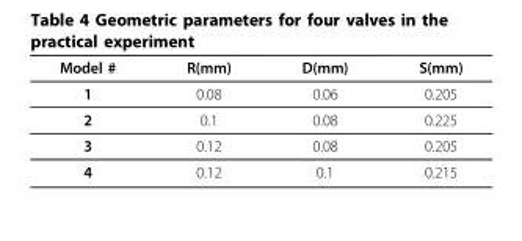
<table><thead><tr><td>Model #</td><td>R(mm)</td><td>D(mm)</td><td>S(mm)</td></tr></thead><tbody><tr><td>1</td><td>0.08</td><td>0.06</td><td>0.205</td></tr><tr><td>2</td><td>0.1</td><td>0.08</td><td>0.225</td></tr><tr><td>3</td><td>0.12</td><td>0.08</td><td>0.205</td></tr><tr><td>4</td><td>0.12</td><td>0.1</td><td>0.215</td></tr></tbody></table>